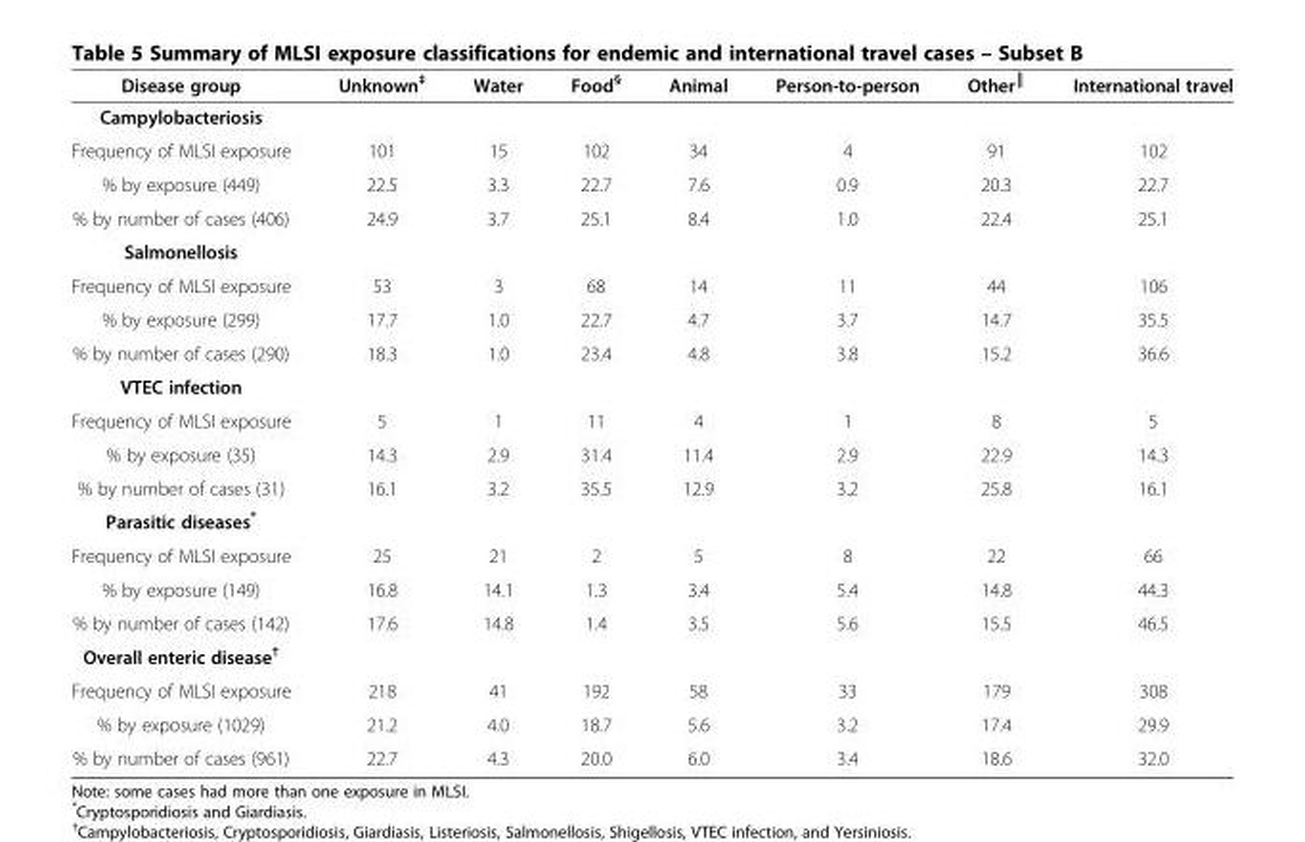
<table><thead><tr><td>Disease group</td><td>Unknown<sup>‡</sup></td><td>Water</td><td>Food<sup>§</sup></td><td>Animal</td><td>Person-to-person</td><td>Other<sup>║</sup></td><td>International travel</td></tr></thead><tbody><tr><td colspan="8">Campylobacteriosis</td></tr><tr><td>Frequency of MLSI exposure</td><td>101</td><td>15</td><td>102</td><td>34</td><td>4</td><td>91</td><td>102</td></tr><tr><td>% by exposure (449)</td><td>22.5</td><td>3.3</td><td>22.7</td><td>7.6</td><td>0.9</td><td>20.3</td><td>22.7</td></tr><tr><td>% by number of cases (406)</td><td>24.9</td><td>3.7</td><td>25.1</td><td>8.4</td><td>1.0</td><td>22.4</td><td>25.1</td></tr><tr><td colspan="8">Salmonellosis</td></tr><tr><td>Frequency of MLSI exposure</td><td>53</td><td>3</td><td>68</td><td>14</td><td>11</td><td>44</td><td>106</td></tr><tr><td>% by exposure (299)</td><td>17.7</td><td>1.0</td><td>22.7</td><td>4.7</td><td>3.7</td><td>14.7</td><td>35.5</td></tr><tr><td>% by number of cases (290)</td><td>18.3</td><td>1.0</td><td>23.4</td><td>4.8</td><td>3.8</td><td>15.2</td><td>36.6</td></tr><tr><td colspan="8">VTEC infection</td></tr><tr><td>Frequency of MLSI exposure</td><td>5</td><td>1</td><td>11</td><td>4</td><td>1</td><td>8</td><td>5</td></tr><tr><td>% by exposure (35)</td><td>14.3</td><td>2.9</td><td>31.4</td><td>11.4</td><td>2.9</td><td>22.9</td><td>14.3</td></tr><tr><td>% by number of cases (31)</td><td>16.1</td><td>3.2</td><td>35.5</td><td>12.9</td><td>3.2</td><td>25.8</td><td>16.1</td></tr><tr><td colspan="8">Parasitic diseases*</td></tr><tr><td>Frequency of MLSI exposure</td><td>25</td><td>21</td><td>2</td><td>5</td><td>8</td><td>22</td><td>66</td></tr><tr><td>% by exposure (149)</td><td>16.8</td><td>14.1</td><td>1.3</td><td>3.4</td><td>5.4</td><td>14.8</td><td>44.3</td></tr><tr><td>% by number of cases (142)</td><td>17.6</td><td>14.8</td><td>1.4</td><td>3.5</td><td>5.6</td><td>15.5</td><td>46.5</td></tr><tr><td colspan="8">Overall enteric disease<sup>†</sup></td></tr><tr><td>Frequency of MLSI exposure</td><td>218</td><td>41</td><td>192</td><td>58</td><td>33</td><td>179</td><td>308</td></tr><tr><td>% by exposure (1029)</td><td>21.2</td><td>4.0</td><td>18.7</td><td>5.6</td><td>3.2</td><td>17.4</td><td>29.9</td></tr><tr><td>% by number of cases (961)</td><td>22.7</td><td>4.3</td><td>20.0</td><td>6.0</td><td>3.4</td><td>18.6</td><td>32.0</td></tr></tbody></table>